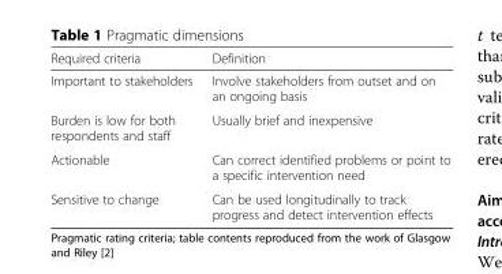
<table><thead><tr><td>Required criteria</td><td>Definition</td></tr></thead><tbody><tr><td>Important to stakeholders</td><td>Involve stakeholders from outset and on an ongoing basis</td></tr><tr><td>Burden is low for both respondents and staff</td><td>Usually brief and inexpensive</td></tr><tr><td>Actionable</td><td>Can correct identified problems or point to a specific intervention need</td></tr><tr><td>Sensitive to change</td><td>Can be used longitudinally to track progress and detect intervention effects</td></tr></tbody></table>